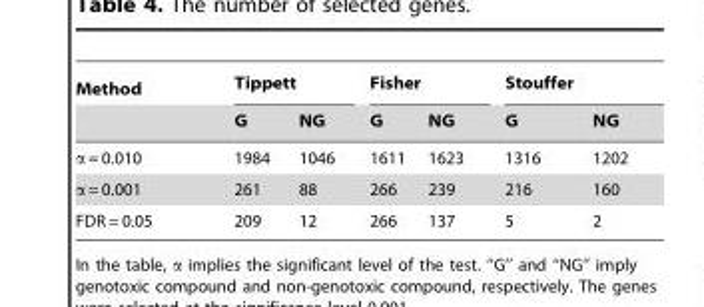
<table><thead><tr><td rowspan="2">Method</td><td colspan="2">Tippett</td><td colspan="2">Fisher</td><td colspan="2">Stouffer</td></tr><tr><td>G</td><td>NG</td><td>G</td><td>NG</td><td>G</td><td>NG</td></tr></thead><tbody><tr><td>α = 0.010</td><td>1984</td><td>1046</td><td>1611</td><td>1623</td><td>1316</td><td>1202</td></tr><tr><td>α = 0.001</td><td>261</td><td>88</td><td>266</td><td>239</td><td>216</td><td>160</td></tr><tr><td>FDR = 0.05</td><td>209</td><td>12</td><td>266</td><td>137</td><td>5</td><td>2</td></tr></tbody></table>